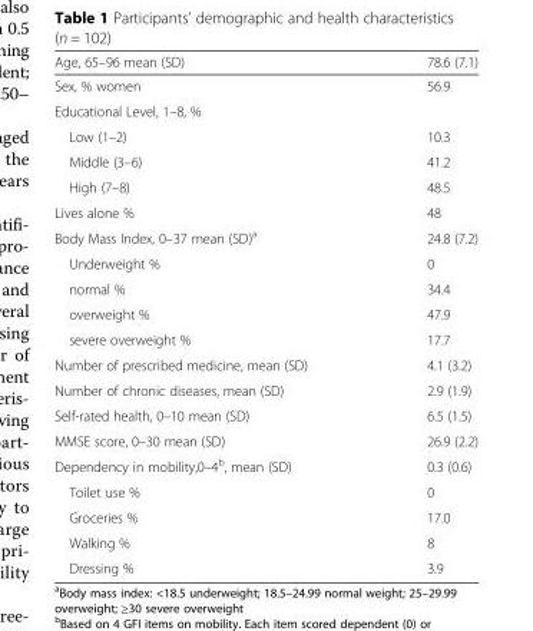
<table><thead><tr><td>Age, 65–96 mean (SD)</td><td>78.6 (7.1)</td></tr></thead><tbody><tr><td>Sex, % women</td><td>56.9</td></tr><tr><td colspan="2">Educational Level, 1–8, %</td></tr><tr><td>Low (1–2)</td><td>10.3</td></tr><tr><td>Middle (3–6)</td><td>41.2</td></tr><tr><td>High (7–8)</td><td>48.5</td></tr><tr><td>Lives alone %</td><td>48</td></tr><tr><td>Body Mass Index, 0–37 mean (SD)<sup>a</sup></td><td>24.8 (7.2)</td></tr><tr><td>Underweight %</td><td>0</td></tr><tr><td>normal %</td><td>34.4</td></tr><tr><td>overweight %</td><td>47.9</td></tr><tr><td>severe overweight %</td><td>17.7</td></tr><tr><td>Number of prescribed medicine, mean (SD)</td><td>4.1 (3.2)</td></tr><tr><td>Number of chronic diseases, mean (SD)</td><td>2.9 (1.9)</td></tr><tr><td>Self-rated health, 0–10 mean (SD)</td><td>6.5 (1.5)</td></tr><tr><td>MMSE score, 0–30 mean (SD)</td><td>26.9 (2.2)</td></tr><tr><td>Dependency in mobility,0–4<sup>b</sup>, mean (SD)</td><td>0.3 (0.6)</td></tr><tr><td>Toilet use %</td><td>0</td></tr><tr><td>Groceries %</td><td>17.0</td></tr><tr><td>Walking %</td><td>8</td></tr><tr><td>Dressing %</td><td>3.9</td></tr></tbody></table>